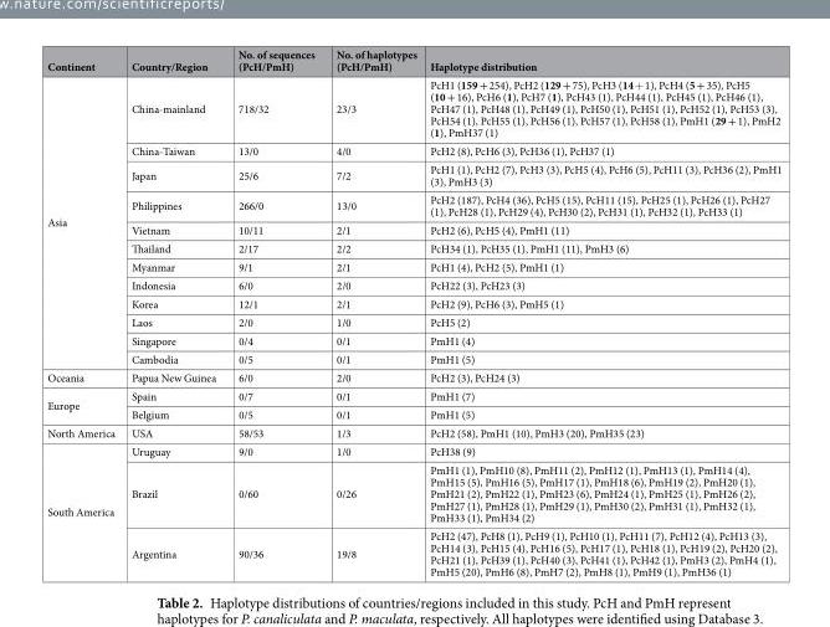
<table><thead><tr><td>Continent</td><td>Country/Region</td><td>No. of sequences (PcH/PmH)</td><td>No. of haplotypes (PcH/PmH)</td><td>Haplotype distribution</td></tr></thead><tbody><tr><td rowspan="12">Asia</td><td>China-mainland</td><td>718/32</td><td>23/3</td><td>PcH1 (159 + 254), PcH2 (129 + 75), PcH3 (14 + 1), PcH4 (5 + 35), PcH5 (10 + 16), PcH6 (1), PcH7 (1), PcH43 (1), PcH44 (1), PcH45 (1), PcH46 (1), PcH47 (1), PcH48 (1), PcH49 (1), PcH50 (1), PcH51 (1), PcH52 (1), PcH53 (3), PcH54 (1), PcH55 (1), PcH56 (1), PcH57 (1), PcH58 (1), PmH1 (29 + 1), PmH2 (1), PmH37 (1)</td></tr><tr><td>China-Taiwan</td><td>13/0</td><td>4/0</td><td>PcH2 (8), PcH6 (3), PcH36 (1), PcH37 (1)</td></tr><tr><td>Japan</td><td>25/6</td><td>7/2</td><td>PcH1 (1), PcH2 (7), PcH3 (3), PcH5 (4), PcH6 (5), PcH11 (3), PcH36 (2), PmH1 (3), PmH3 (3)</td></tr><tr><td>Philippines</td><td>266/0</td><td>13/0</td><td>PcH2 (187), PcH4 (36), PcH5 (15), PcH11 (15), PcH25 (1), PcH26 (1), PcH27 (1), PcH28 (1), PcH29 (4), PcH30 (2), PcH31 (1), PcH32 (1), PcH33 (1)</td></tr><tr><td>Vietnam</td><td>10/11</td><td>2/1</td><td>PcH2 (6), PcH5 (4), PmH1 (11)</td></tr><tr><td>Thailand</td><td>2/17</td><td>2/2</td><td>PcH34 (1), PcH35 (1), PmH1 (11), PmH3 (6)</td></tr><tr><td>Myanmar</td><td>9/1</td><td>2/1</td><td>PcH1 (4), PcH2 (5), PmH1 (1)</td></tr><tr><td>Indonesia</td><td>6/0</td><td>2/0</td><td>PcH22 (3), PcH23 (3)</td></tr><tr><td>Korea</td><td>12/1</td><td>2/1</td><td>PcH2 (9), PcH6 (3), PmH5 (1)</td></tr><tr><td>Laos</td><td>2/0</td><td>1/0</td><td>PcH5 (2)</td></tr><tr><td>Singapore</td><td>0/4</td><td>0/1</td><td>PmH1 (4)</td></tr><tr><td>Cambodia</td><td>0/5</td><td>0/1</td><td>PmH1 (5)</td></tr><tr><td>Oceania</td><td>Papua New Guinea</td><td>6/0</td><td>2/0</td><td>PcH2 (3), PcH24 (3)</td></tr><tr><td rowspan="2">Europe</td><td>Spain</td><td>0/7</td><td>0/1</td><td>PmH1 (7)</td></tr><tr><td>Belgium</td><td>0/5</td><td>0/1</td><td>PmH1 (5)</td></tr><tr><td>North America</td><td>USA</td><td>58/53</td><td>1/3</td><td>PcH2 (58), PmH1 (10), PmH3 (20), PmH35 (23)</td></tr><tr><td rowspan="3">South America</td><td>Uruguay</td><td>9/0</td><td>1/0</td><td>PcH38 (9)</td></tr><tr><td>Brazil</td><td>0/60</td><td>0/26</td><td>PmH1 (1), PmH10 (8), PmH11 (2), PmH12 (1), PmH13 (1), PmH14 (4), PmH15 (5), PmH16 (5), PmH17 (1), PmH18 (6), PmH19 (2), PmH20 (1), PmH21 (2), PmH22 (1), PmH23 (6), PmH24 (1), PmH25 (1), PmH26 (2), PmH27 (1), PmH28 (1), PmH29 (1), PmH30 (2), PmH31 (1), PmH32 (1), PmH33 (1), PmH34 (2)</td></tr><tr><td>Argentina</td><td>90/36</td><td>19/8</td><td>PcH2 (47), PcH8 (1), PcH9 (1), PcH10 (1), PcH11 (7), PcH12 (4), PcH13 (3), PcH14 (3), PcH15 (4), PcH16 (5), PcH17 (1), PcH18 (1), PcH19 (2), PcH20 (2), PcH21 (1), PcH39 (1), PcH40 (3), PcH41 (1), PcH42 (1), PmH3 (2), PmH4 (1), PmH5 (20), PmH6 (8), PmH7 (2), PmH8 (1), PmH9 (1), PmH36 (1)</td></tr></tbody></table>